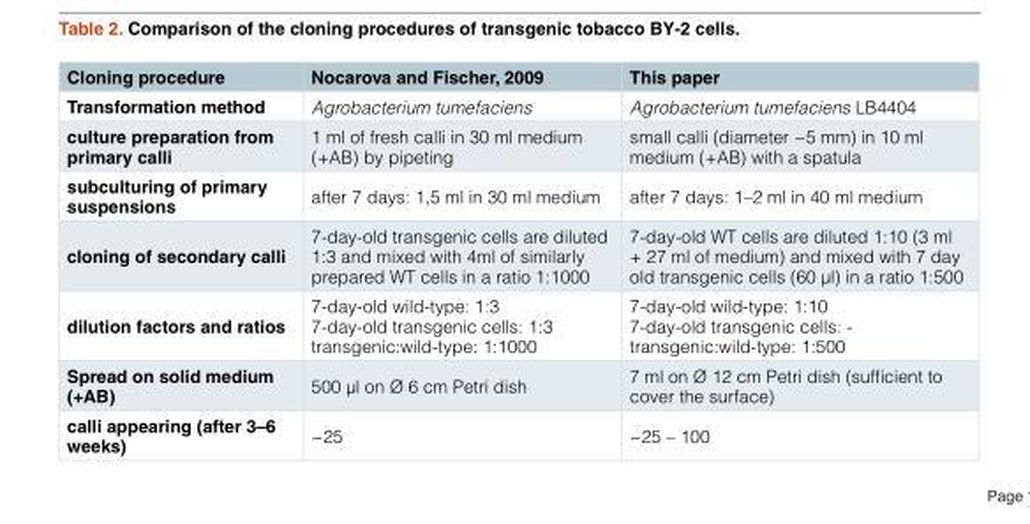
<table><thead><tr><td>Cloning procedure</td><td>Nocarova and Fischer, 2009</td><td>This paper</td></tr></thead><tbody><tr><td>Transformation method</td><td>Agrobacterium tumefaciens</td><td>Agrobacterium tumefaciens LB4404</td></tr><tr><td>culture preparation from primary calli</td><td>1 ml of fresh calli in 30 ml medium (+AB) by pipeting</td><td>small calli (diameter ~5 mm) in 10 ml medium (+AB) with a spatula</td></tr><tr><td>subculturing of primary suspensions</td><td>after 7 days: 1,5 ml in 30 ml medium</td><td>after 7 days: 1–2 ml in 40 ml medium</td></tr><tr><td>cloning of secondary calli</td><td>7-day-old transgenic cells are diluted 1:3 and mixed with 4ml of similarly prepared WT cells in a ratio 1:1000</td><td>7-day-old WT cells are diluted 1:10 (3 ml + 27 ml of medium) and mixed with 7 day old transgenic cells (60 µl) in a ratio 1:500</td></tr><tr><td>dilution factors and ratios</td><td>7-day-old wild-type: 1:3 7-day-old transgenic cells: 1:3 transgenic:wild-type: 1:1000</td><td>7-day-old wild-type: 1:10 7-day-old transgenic cells: - transgenic:wild-type: 1:500</td></tr><tr><td>Spread on solid medium (+AB)</td><td>500 µl on Ø 6 cm Petri dish</td><td>7 ml on Ø 12 cm Petri dish (sufficient to cover the surface)</td></tr><tr><td>calli appearing (after 3–6 weeks)</td><td>~25</td><td>~25 – 100</td></tr></tbody></table>